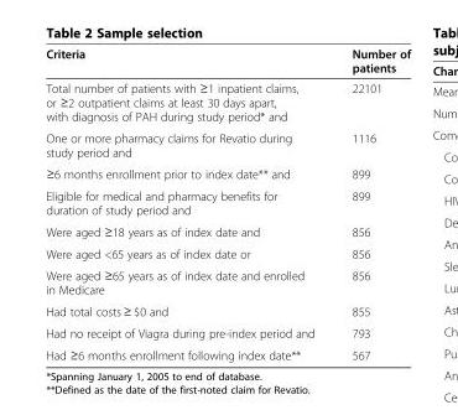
<table><thead><tr><td>Criteria</td><td>Number of patients</td></tr></thead><tbody><tr><td>Total number of patients with ≥1 inpatient claims, or ≥2 outpatient claims at least 30 days apart, with diagnosis of PAH during study period* and</td><td>22101</td></tr><tr><td>One or more pharmacy claims for Revatio during study period and</td><td>1116</td></tr><tr><td>≥6 months enrollment prior to index date** and</td><td>899</td></tr><tr><td>Eligible for medical and pharmacy benefits for duration of study period and</td><td>899</td></tr><tr><td>Were aged ≥18 years as of index date and</td><td>856</td></tr><tr><td>Were aged &lt;65 years as of index date or</td><td>856</td></tr><tr><td>Were aged ≥65 years as of index date and enrolled in Medicare</td><td>856</td></tr><tr><td>Had total costs ≥ $0 and</td><td>855</td></tr><tr><td>Had no receipt of Viagra during pre-index period and</td><td>793</td></tr><tr><td>Had ≥6 months enrollment following index date**</td><td>567</td></tr></tbody></table>